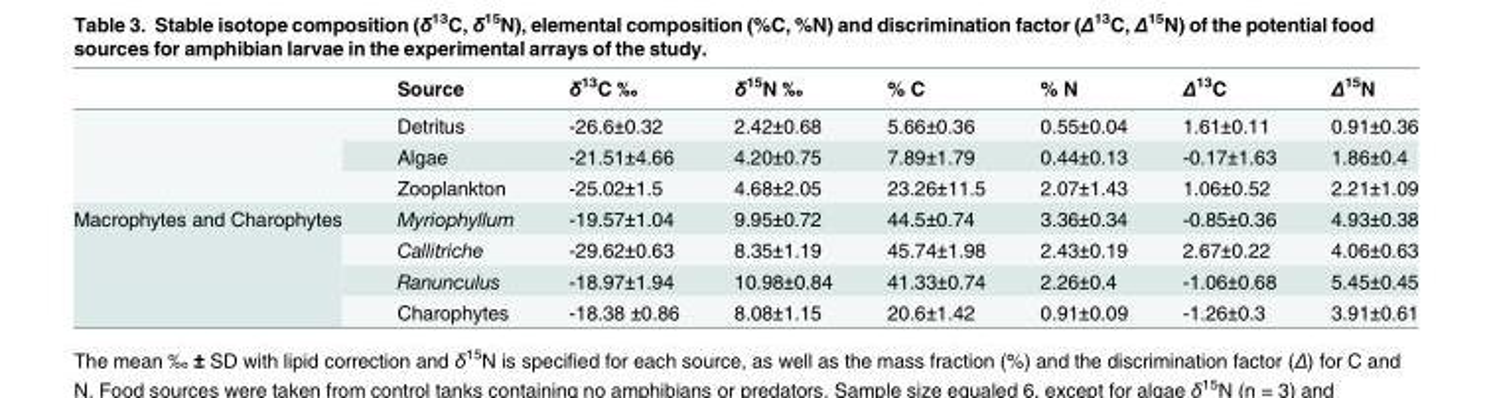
<table><thead><tr><td></td><td>Source</td><td>δ<sup>13</sup>C ‰</td><td>δ<sup>15</sup>N ‰</td><td>% C</td><td>% N</td><td>Δ<sup>13</sup>C</td><td>Δ<sup>15</sup>N</td></tr></thead><tbody><tr><td rowspan="3"></td><td>Detritus</td><td>-26.6±0.32</td><td>2.42±0.68</td><td>5.66±0.36</td><td>0.55±0.04</td><td>1.61±0.11</td><td>0.91±0.36</td></tr><tr><td>Algae</td><td>-21.51±4.66</td><td>4.20±0.75</td><td>7.89±1.79</td><td>0.44±0.13</td><td>-0.17±1.63</td><td>1.86±0.4</td></tr><tr><td>Zooplankton</td><td>-25.02±1.5</td><td>4.68±2.05</td><td>23.26±11.5</td><td>2.07±1.43</td><td>1.06±0.52</td><td>2.21±1.09</td></tr><tr><td rowspan="4">Macrophytes and Charophytes</td><td>Myriophyllum</td><td>-19.57±1.04</td><td>9.95±0.72</td><td>44.5±0.74</td><td>3.36±0.34</td><td>-0.85±0.36</td><td>4.93±0.38</td></tr><tr><td>Callitriche</td><td>-29.62±0.63</td><td>8.35±1.19</td><td>45.74±1.98</td><td>2.43±0.19</td><td>2.67±0.22</td><td>4.06±0.63</td></tr><tr><td>Ranunculus</td><td>-18.97±1.94</td><td>10.98±0.84</td><td>41.33±0.74</td><td>2.26±0.4</td><td>-1.06±0.68</td><td>5.45±0.45</td></tr><tr><td>Charophytes</td><td>-18.38 ±0.86</td><td>8.08±1.15</td><td>20.6±1.42</td><td>0.91±0.09</td><td>-1.26±0.3</td><td>3.91±0.61</td></tr></tbody></table>